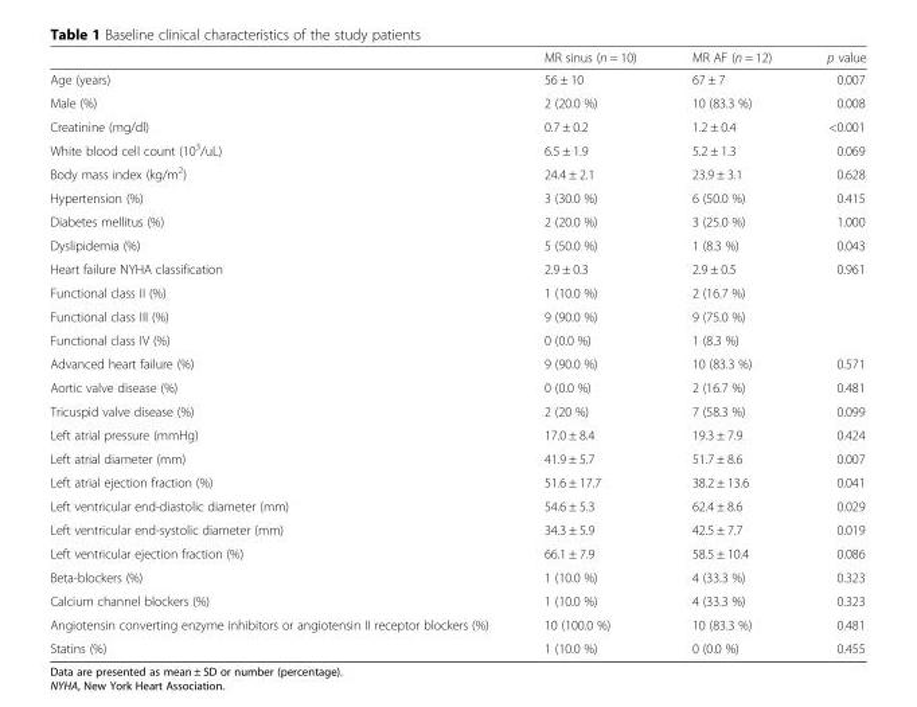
<table><thead><tr><td></td><td>MR sinus (n = 10)</td><td>MR AF (n = 12)</td><td>p value</td></tr></thead><tbody><tr><td>Age (years)</td><td>56 ± 10</td><td>67 ± 7</td><td>0.007</td></tr><tr><td>Male (%)</td><td>2 (20.0 %)</td><td>10 (83.3 %)</td><td>0.008</td></tr><tr><td>Creatinine (mg/dl)</td><td>0.7 ± 0.2</td><td>1.2 ± 0.4</td><td>&lt;0.001</td></tr><tr><td>White blood cell count (10<sup>3</sup>/uL)</td><td>6.5 ± 1.9</td><td>5.2 ± 1.3</td><td>0.069</td></tr><tr><td>Body mass index (kg/m<sup>2</sup>)</td><td>24.4 ± 2.1</td><td>23.9 ± 3.1</td><td>0.628</td></tr><tr><td>Hypertension (%)</td><td>3 (30.0 %)</td><td>6 (50.0 %)</td><td>0.415</td></tr><tr><td>Diabetes mellitus (%)</td><td>2 (20.0 %)</td><td>3 (25.0 %)</td><td>1.000</td></tr><tr><td>Dyslipidemia (%)</td><td>5 (50.0 %)</td><td>1 (8.3 %)</td><td>0.043</td></tr><tr><td>Heart failure NYHA classification</td><td>2.9 ± 0.3</td><td>2.9 ± 0.5</td><td>0.961</td></tr><tr><td>Functional class II (%)</td><td>1 (10.0 %)</td><td>2 (16.7 %)</td><td></td></tr><tr><td>Functional class III (%)</td><td>9 (90.0 %)</td><td>9 (75.0 %)</td><td></td></tr><tr><td>Functional class IV (%)</td><td>0 (0.0 %)</td><td>1 (8.3 %)</td><td></td></tr><tr><td>Advanced heart failure (%)</td><td>9 (90.0 %)</td><td>10 (83.3 %)</td><td>0.571</td></tr><tr><td>Aortic valve disease (%)</td><td>0 (0.0 %)</td><td>2 (16.7 %)</td><td>0.481</td></tr><tr><td>Tricuspid valve disease (%)</td><td>2 (20 %)</td><td>7 (58.3 %)</td><td>0.099</td></tr><tr><td>Left atrial pressure (mmHg)</td><td>17.0 ± 8.4</td><td>19.3 ± 7.9</td><td>0.424</td></tr><tr><td>Left atrial diameter (mm)</td><td>41.9 ± 5.7</td><td>51.7 ± 8.6</td><td>0.007</td></tr><tr><td>Left atrial ejection fraction (%)</td><td>51.6 ± 17.7</td><td>38.2 ± 13.6</td><td>0.041</td></tr><tr><td>Left ventricular end-diastolic diameter (mm)</td><td>54.6 ± 5.3</td><td>62.4 ± 8.6</td><td>0.029</td></tr><tr><td>Left ventricular end-systolic diameter (mm)</td><td>34.3 ± 5.9</td><td>42.5 ± 7.7</td><td>0.019</td></tr><tr><td>Left ventricular ejection fraction (%)</td><td>66.1 ± 7.9</td><td>58.5 ± 10.4</td><td>0.086</td></tr><tr><td>Beta-blockers (%)</td><td>1 (10.0 %)</td><td>4 (33.3 %)</td><td>0.323</td></tr><tr><td>Calcium channel blockers (%)</td><td>1 (10.0 %)</td><td>4 (33.3 %)</td><td>0.323</td></tr><tr><td>Angiotensin converting enzyme inhibitors or angiotensin II receptor blockers (%)</td><td>10 (100.0 %)</td><td>10 (83.3 %)</td><td>0.481</td></tr><tr><td>Statins (%)</td><td>1 (10.0 %)</td><td>0 (0.0 %)</td><td>0.455</td></tr></tbody></table>